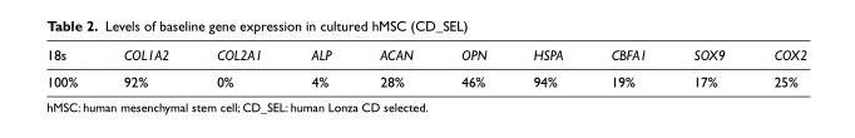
<table><thead><tr><td>18s</td><td>COL1A2</td><td>COL2A1</td><td>ALP</td><td>ACAN</td><td>OPN</td><td>HSPA</td><td>CBFA1</td><td>SOX9</td><td>COX2</td></tr></thead><tbody><tr><td>100%</td><td>92%</td><td>0%</td><td>4%</td><td>28%</td><td>46%</td><td>94%</td><td>19%</td><td>17%</td><td>25%</td></tr></tbody></table>